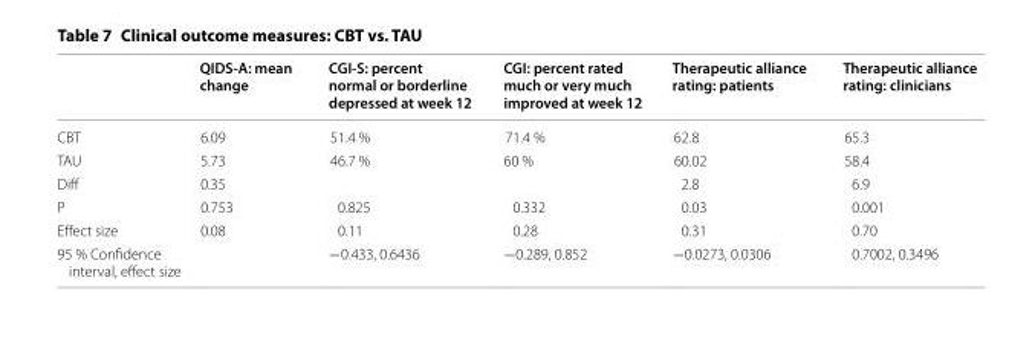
<table><thead><tr><td></td><td>QIDS-A: mean change</td><td>CGI-S: percent normal or borderline depressed at week 12</td><td>CGI: percent rated much or very much improved at week 12</td><td>Therapeutic alliance rating: patients</td><td>Therapeutic alliance rating: clinicians</td></tr></thead><tbody><tr><td>CBT</td><td>6.09</td><td>51.4 %</td><td>71.4 %</td><td>62.8</td><td>65.3</td></tr><tr><td>TAU</td><td>5.73</td><td>46.7 %</td><td>60 %</td><td>60.02</td><td>58.4</td></tr><tr><td>Diff</td><td>0.35</td><td></td><td></td><td>2.8</td><td>6.9</td></tr><tr><td>P</td><td>0.753</td><td>0.825</td><td>0.332</td><td>0.03</td><td>0.001</td></tr><tr><td>Effect size</td><td>0.08</td><td>0.11</td><td>0.28</td><td>0.31</td><td>0.70</td></tr><tr><td>95 % Confidence interval, effect size</td><td></td><td>−0.433, 0.6436</td><td>−0.289, 0.852</td><td>−0.0273, 0.0306</td><td>0.7002, 0.3496</td></tr></tbody></table>